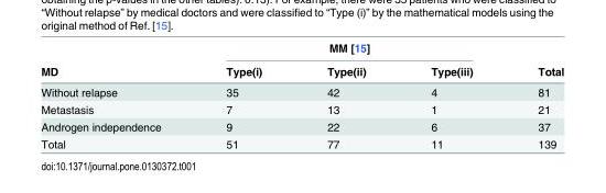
<table><thead><tr><td rowspan="2">MD</td><td colspan="3">MM [15]</td><td rowspan="2">Total</td></tr><tr><td>Type(i)</td><td>Type(ii)</td><td>Type(iii)</td></tr></thead><tbody><tr><td>Without relapse</td><td>35</td><td>42</td><td>4</td><td>81</td></tr><tr><td>Metastasis</td><td>7</td><td>13</td><td>1</td><td>21</td></tr><tr><td>Androgen independence</td><td>9</td><td>22</td><td>6</td><td>37</td></tr><tr><td>Total</td><td>51</td><td>77</td><td>11</td><td>139</td></tr></tbody></table>